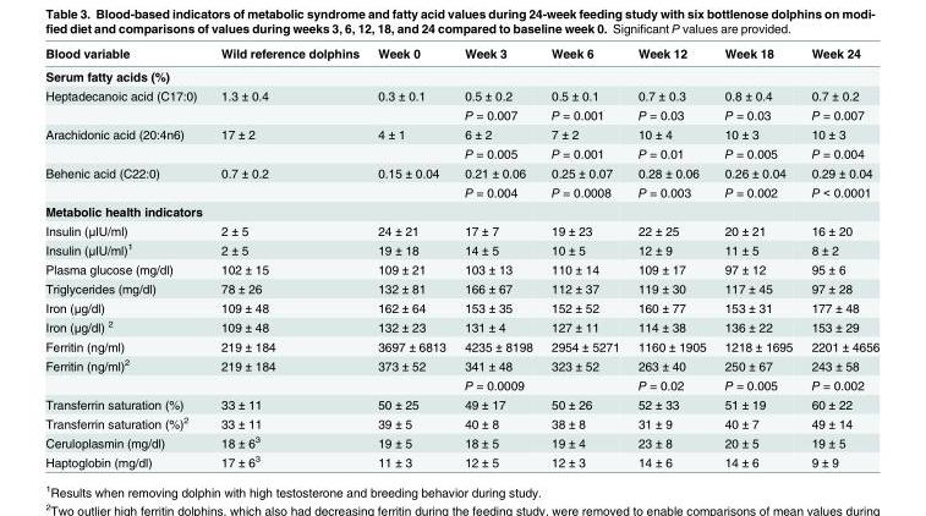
<table><thead><tr><td>Blood variable</td><td>Wild reference dolphins</td><td>Week 0</td><td>Week 3</td><td>Week 6</td><td>Week 12</td><td>Week 18</td><td>Week 24</td></tr></thead><tbody><tr><td colspan="8">Serum fatty acids (%)</td></tr><tr><td rowspan="2">Heptadecanoic acid (C17:0)</td><td>1.3 ± 0.4</td><td>0.3 ± 0.1</td><td>0.5 ± 0.2</td><td>0.5 ± 0.1</td><td>0.7 ± 0.3</td><td>0.8 ± 0.4</td><td>0.7 ± 0.2</td></tr><tr><td></td><td></td><td>P = 0.007</td><td>P = 0.001</td><td>P = 0.03</td><td>P = 0.03</td><td>P = 0.007</td></tr><tr><td rowspan="2">Arachidonic acid (20:4n6)</td><td>17 ± 2</td><td>4 ± 1</td><td>6 ± 2</td><td>7 ± 2</td><td>10 ± 4</td><td>10 ± 3</td><td>10 ± 3</td></tr><tr><td></td><td></td><td>P = 0.005</td><td>P = 0.001</td><td>P = 0.01</td><td>P = 0.005</td><td>P = 0.004</td></tr><tr><td rowspan="2">Behenic acid (C22:0)</td><td>0.7 ± 0.2</td><td>0.15 ± 0.04</td><td>0.21 ± 0.06</td><td>0.25 ± 0.07</td><td>0.28 ± 0.06</td><td>0.26 ± 0.04</td><td>0.29 ± 0.04</td></tr><tr><td></td><td></td><td>P = 0.004</td><td>P = 0.0008</td><td>P = 0.003</td><td>P = 0.002</td><td>P &lt; 0.0001</td></tr><tr><td colspan="8">Metabolic health indicators</td></tr><tr><td>Insulin (μIU/ml)</td><td>2 ± 5</td><td>24 ± 21</td><td>17 ± 7</td><td>19 ± 23</td><td>22 ± 25</td><td>20 ± 21</td><td>16 ± 20</td></tr><tr><td>Insulin (μIU/ml)<sup>1</sup></td><td>2 ± 5</td><td>19 ± 18</td><td>14 ± 5</td><td>10 ± 5</td><td>12 ± 9</td><td>11 ± 5</td><td>8 ± 2</td></tr><tr><td>Plasma glucose (mg/dl)</td><td>102 ± 15</td><td>109 ± 21</td><td>103 ± 13</td><td>110 ± 14</td><td>109 ± 17</td><td>97 ± 12</td><td>95 ± 6</td></tr><tr><td>Triglycerides (mg/dl)</td><td>78 ± 26</td><td>132 ± 81</td><td>166 ± 67</td><td>112 ± 37</td><td>119 ± 30</td><td>117 ± 45</td><td>97 ± 28</td></tr><tr><td>Iron (μg/dl)</td><td>109 ± 48</td><td>162 ± 64</td><td>153 ± 35</td><td>152 ± 52</td><td>160 ± 77</td><td>153 ± 31</td><td>177 ± 48</td></tr><tr><td>Iron (μg/dl) <sup>2</sup></td><td>109 ± 48</td><td>132 ± 23</td><td>131 ± 4</td><td>127 ± 11</td><td>114 ± 38</td><td>136 ± 22</td><td>153 ± 29</td></tr><tr><td>Ferritin (ng/ml)</td><td>219 ± 184</td><td>3697 ± 6813</td><td>4235 ± 8198</td><td>2954 ± 5271</td><td>1160 ± 1905</td><td>1218 ± 1695</td><td>2201 ± 4656</td></tr><tr><td rowspan="2">Ferritin (ng/ml)<sup>2</sup></td><td>219 ± 184</td><td>373 ± 52</td><td>341 ± 48</td><td>323 ± 52</td><td>263 ± 40</td><td>250 ± 67</td><td>243 ± 58</td></tr><tr><td></td><td></td><td>P = 0.0009</td><td></td><td>P = 0.02</td><td>P = 0.005</td><td>P = 0.002</td></tr><tr><td>Transferrin saturation (%)</td><td>33 ± 11</td><td>50 ± 25</td><td>49 ± 17</td><td>50 ± 26</td><td>52 ± 33</td><td>51 ± 19</td><td>60 ± 22</td></tr><tr><td>Transferrin saturation (%)<sup>2</sup></td><td>33 ± 11</td><td>39 ± 5</td><td>40 ± 8</td><td>38 ± 8</td><td>31 ± 9</td><td>40 ± 7</td><td>49 ± 14</td></tr><tr><td>Ceruloplasmin (mg/dl)</td><td>18 ± 6<sup>3</sup></td><td>19 ± 5</td><td>18 ± 5</td><td>19 ± 4</td><td>23 ± 8</td><td>20 ± 5</td><td>19 ± 5</td></tr><tr><td>Haptoglobin (mg/dl)</td><td>17 ± 6<sup>3</sup></td><td>11 ± 3</td><td>12 ± 5</td><td>12 ± 3</td><td>14 ± 6</td><td>14 ± 6</td><td>9 ± 9</td></tr></tbody></table>